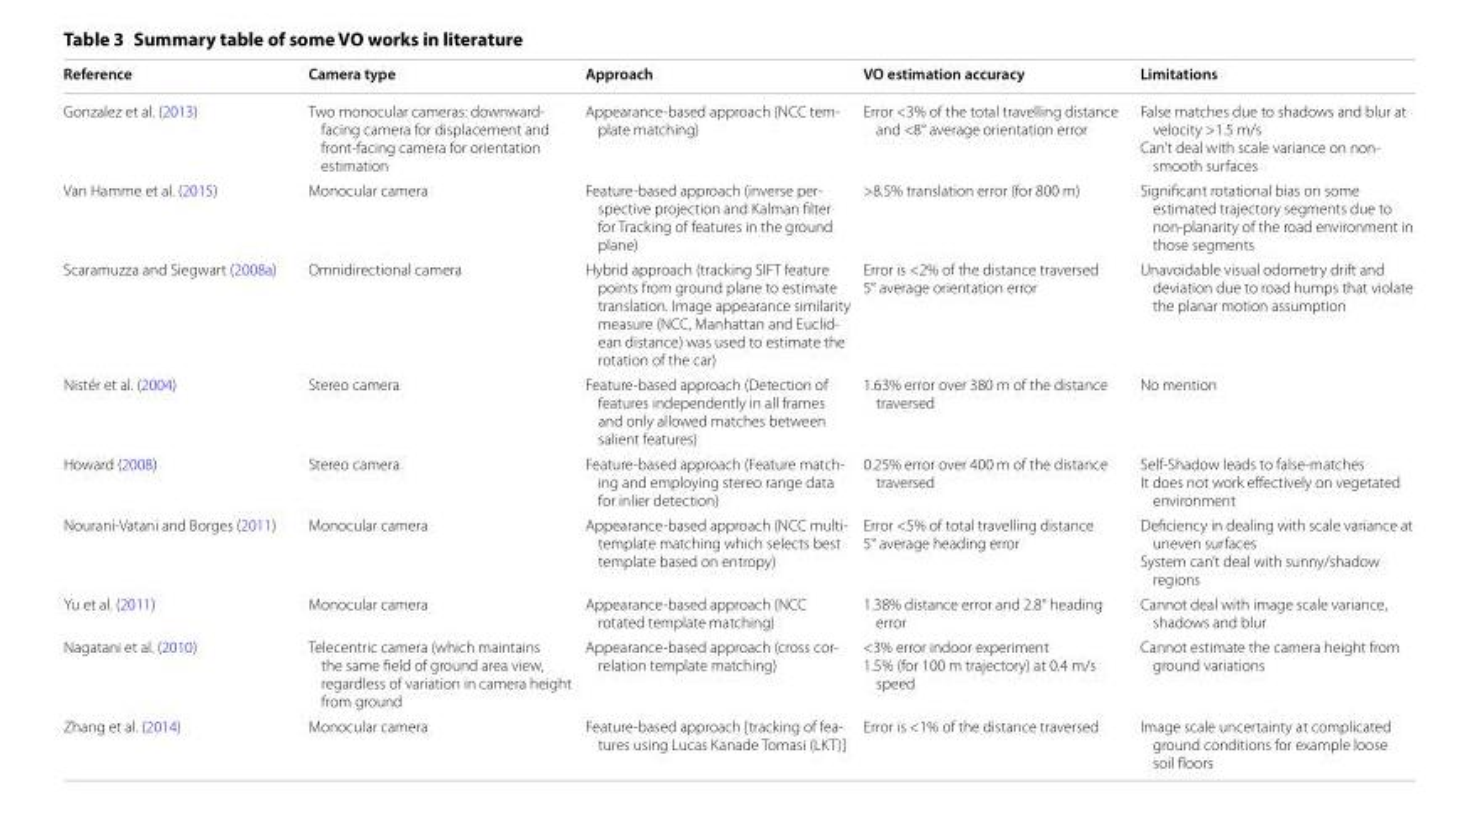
<table><thead><tr><td>Reference</td><td>Camera type</td><td>Approach</td><td>VO estimation accuracy</td><td>Limitations</td></tr></thead><tbody><tr><td>Gonzalez et al. (2013)</td><td>Two monocular cameras: downward- facing camera for displacement and front-facing camera for orientation estimation</td><td>Appearance-based approach (NCC tem- plate matching)</td><td>Error &lt;3% of the total travelling distance and &lt;8° average orientation error</td><td>False matches due to shadows and blur at velocity &gt;1.5 m/s Can’t deal with scale variance on non- smooth surfaces</td></tr><tr><td>Van Hamme et al. (2015)</td><td>Monocular camera</td><td>Feature-based approach (inverse per- spective projection and Kalman filter for Tracking of features in the ground plane)</td><td>&gt;8.5% translation error (for 800 m)</td><td>Significant rotational bias on some estimated trajectory segments due to non-planarity of the road environment in those segments</td></tr><tr><td>Scaramuzza and Siegwart (2008a)</td><td>Omnidirectional camera</td><td>Hybrid approach (tracking SIFT feature points from ground plane to estimate translation. Image appearance similarity measure (NCC, Manhattan and Euclid- ean distance) was used to estimate the rotation of the car)</td><td>Error is &lt;2% of the distance traversed 5° average orientation error</td><td>Unavoidable visual odometry drift and deviation due to road humps that violate the planar motion assumption</td></tr><tr><td>Nistér et al. (2004)</td><td>Stereo camera</td><td>Feature-based approach (Detection of features independently in all frames and only allowed matches between salient features)</td><td>1.63% error over 380 m of the distance traversed</td><td>No mention</td></tr><tr><td>Howard (2008)</td><td>Stereo camera</td><td>Feature-based approach (Feature match- ing and employing stereo range data for inlier detection)</td><td>0.25% error over 400 m of the distance traversed</td><td>Self-Shadow leads to false-matches It does not work effectively on vegetated environment</td></tr><tr><td>Nourani-Vatani and Borges (2011)</td><td>Monocular camera</td><td>Appearance-based approach (NCC multi- template matching which selects best template based on entropy)</td><td>Error &lt;5% of total travelling distance 5° average heading error</td><td>Deficiency in dealing with scale variance at uneven surfaces System can’t deal with sunny/shadow regions</td></tr><tr><td>Yu et al. (2011)</td><td>Monocular camera</td><td>Appearance-based approach (NCC rotated template matching)</td><td>1.38% distance error and 2.8° heading error</td><td>Cannot deal with image scale variance, shadows and blur</td></tr><tr><td>Nagatani et al. (2010)</td><td>Telecentric camera (which maintains the same field of ground area view, regardless of variation in camera height from ground</td><td>Appearance-based approach (cross cor- relation template matching)</td><td>&lt;3% error indoor experiment 1.5% (for 100 m trajectory) at 0.4 m/s speed</td><td>Cannot estimate the camera height from ground variations</td></tr><tr><td>Zhang et al. (2014)</td><td>Monocular camera</td><td>Feature-based approach [tracking of fea- tures using Lucas Kanade Tomasi (LKT)]</td><td>Error is &lt;1% of the distance traversed</td><td>Image scale uncertainty at complicated ground conditions for example loose soil floors</td></tr></tbody></table>